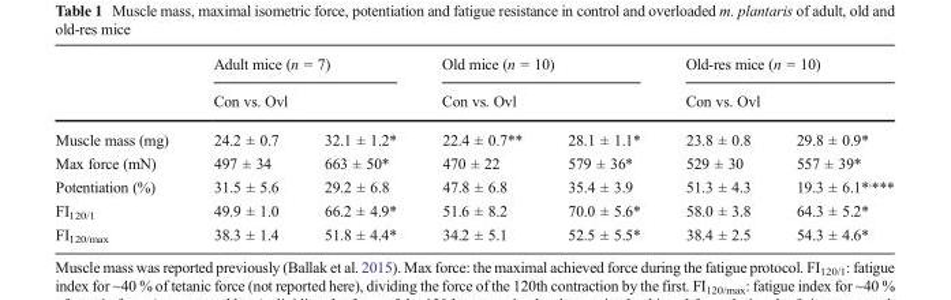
<table><thead><tr><td rowspan="3">Muscle mass (mg)</td><td rowspan="2" colspan="2">Adult mice (n = 7) Con vs. Ovl</td><td rowspan="2" colspan="2">Old mice (n = 10) Con vs. Ovl</td><td rowspan="2" colspan="2">Old-res mice (n = 10) Con vs. Ovl</td></tr><tr></tr><tr><td>24.2 ± 0.7</td><td>32.1 ± 1.2*</td><td>22.4 ± 0.7**</td><td>28.1 ± 1.1*</td><td>23.8 ± 0.8</td><td>29.8 ± 0.9*</td></tr></thead><tbody><tr><td>Max force (mN)</td><td>497 ± 34</td><td>663 ± 50*</td><td>470 ± 22</td><td>579 ± 36*</td><td>529 ± 30</td><td>557 ± 39*</td></tr><tr><td>Potentiation (%)</td><td>31.5 ± 5.6</td><td>29.2 ± 6.8</td><td>47.8 ± 6.8</td><td>35.4 ± 3.9</td><td>51.3 ± 4.3</td><td>19.3 ± 6.1*<sup>,</sup>***</td></tr><tr><td>FI<sub>120/1</sub></td><td>49.9 ± 1.0</td><td>66.2 ± 4.9*</td><td>51.6 ± 8.2</td><td>70.0 ± 5.6*</td><td>58.0 ± 3.8</td><td>64.3 ± 5.2*</td></tr><tr><td>FI<sub>120/max</sub></td><td>38.3 ± 1.4</td><td>51.8 ± 4.4*</td><td>34.2 ± 5.1</td><td>52.5 ± 5.5*</td><td>38.4 ± 2.5</td><td>54.3 ± 4.6*</td></tr></tbody></table>